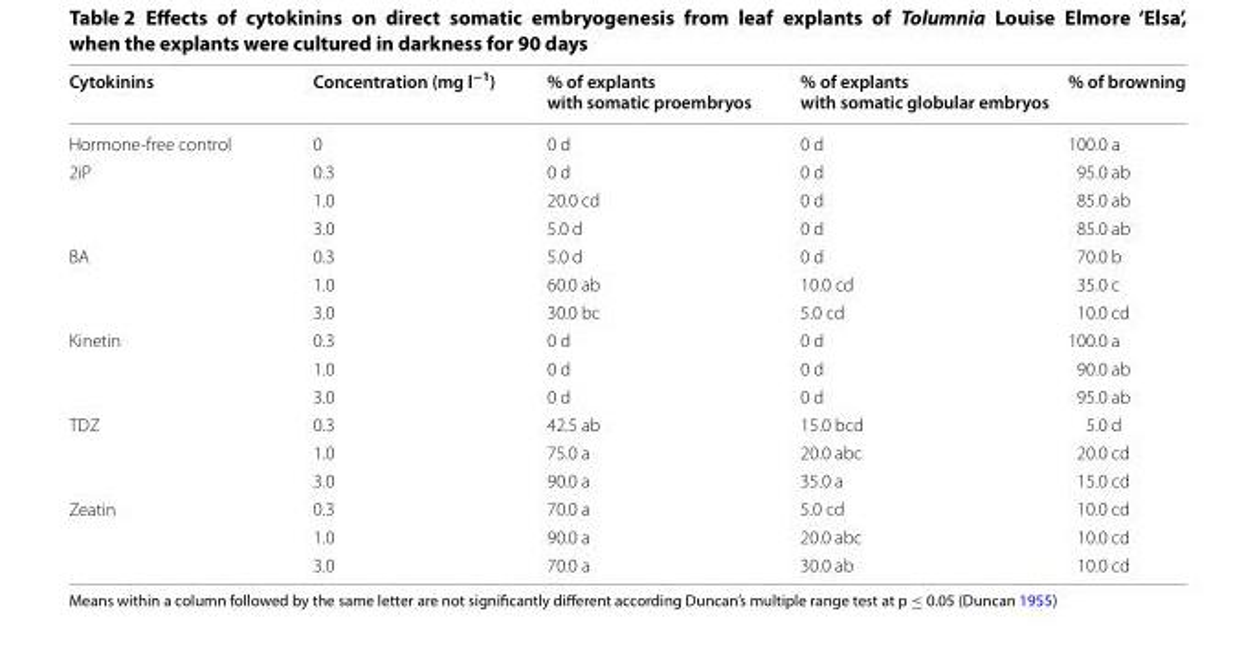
<table><thead><tr><td>Cytokinins</td><td>Concentration (mg l<sup>−1</sup>)</td><td>% of explants with somatic proembryos</td><td>% of explants with somatic globular embryos</td><td>% of browning</td></tr></thead><tbody><tr><td>Hormone‑free control</td><td>0</td><td>0 d</td><td>0 d</td><td>100.0 a</td></tr><tr><td rowspan="3">2iP</td><td>0.3</td><td>0 d</td><td>0 d</td><td>95.0 ab</td></tr><tr><td>1.0</td><td>20.0 cd</td><td>0 d</td><td>85.0 ab</td></tr><tr><td>3.0</td><td>5.0 d</td><td>0 d</td><td>85.0 ab</td></tr><tr><td rowspan="3">BA</td><td>0.3</td><td>5.0 d</td><td>0 d</td><td>70.0 b</td></tr><tr><td>1.0</td><td>60.0 ab</td><td>10.0 cd</td><td>35.0 c</td></tr><tr><td>3.0</td><td>30.0 bc</td><td>5.0 cd</td><td>10.0 cd</td></tr><tr><td rowspan="3">Kinetin</td><td>0.3</td><td>0 d</td><td>0 d</td><td>100.0 a</td></tr><tr><td>1.0</td><td>0 d</td><td>0 d</td><td>90.0 ab</td></tr><tr><td>3.0</td><td>0 d</td><td>0 d</td><td>95.0 ab</td></tr><tr><td rowspan="3">TDZ</td><td>0.3</td><td>42.5 ab</td><td>15.0 bcd</td><td>5.0 d</td></tr><tr><td>1.0</td><td>75.0 a</td><td>20.0 abc</td><td>20.0 cd</td></tr><tr><td>3.0</td><td>90.0 a</td><td>35.0 a</td><td>15.0 cd</td></tr><tr><td rowspan="3">Zeatin</td><td>0.3</td><td>70.0 a</td><td>5.0 cd</td><td>10.0 cd</td></tr><tr><td>1.0</td><td>90.0 a</td><td>20.0 abc</td><td>10.0 cd</td></tr><tr><td>3.0</td><td>70.0 a</td><td>30.0 ab</td><td>10.0 cd</td></tr></tbody></table>